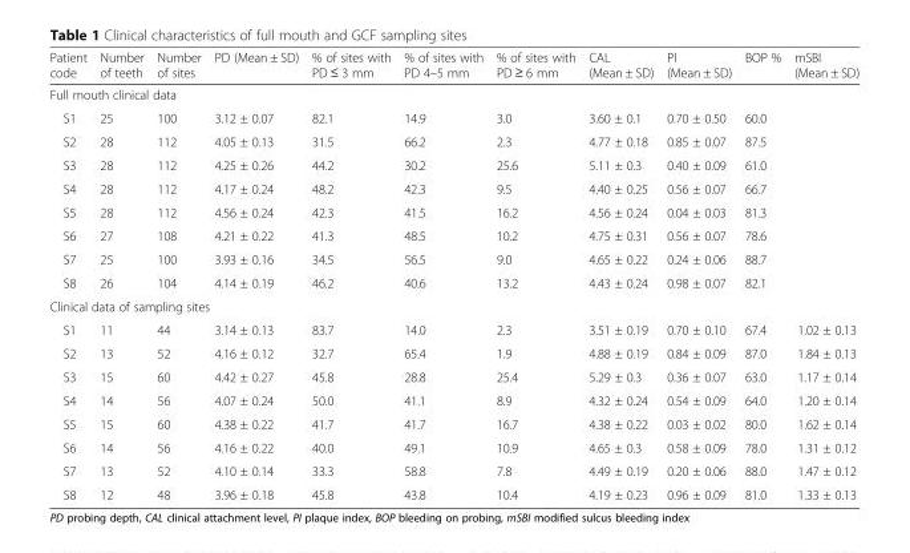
<table><thead><tr><td>Patient code</td><td>Number of teeth</td><td>Number of sites</td><td>PD (Mean ± SD)</td><td>% of sites with PD ≤ 3 mm</td><td>% of sites with PD 4–5 mm</td><td>% of sites with PD ≥ 6 mm</td><td>CAL (Mean ± SD)</td><td>PI (Mean ± SD)</td><td>BOP %</td><td>mSBI (Mean ± SD)</td></tr></thead><tbody><tr><td colspan="11">Full mouth clinical data</td></tr><tr><td>S1</td><td>25</td><td>100</td><td>3.12 ± 0.07</td><td>82.1</td><td>14.9</td><td>3.0</td><td>3.60 ± 0.1</td><td>0.70 ± 0.50</td><td>60.0</td><td></td></tr><tr><td>S2</td><td>28</td><td>112</td><td>4.05 ± 0.13</td><td>31.5</td><td>66.2</td><td>2.3</td><td>4.77 ± 0.18</td><td>0.85 ± 0.07</td><td>87.5</td><td></td></tr><tr><td>S3</td><td>28</td><td>112</td><td>4.25 ± 0.26</td><td>44.2</td><td>30.2</td><td>25.6</td><td>5.11 ± 0.3</td><td>0.40 ± 0.09</td><td>61.0</td><td></td></tr><tr><td>S4</td><td>28</td><td>112</td><td>4.17 ± 0.24</td><td>48.2</td><td>42.3</td><td>9.5</td><td>4.40 ± 0.25</td><td>0.56 ± 0.07</td><td>66.7</td><td></td></tr><tr><td>S5</td><td>28</td><td>112</td><td>4.56 ± 0.24</td><td>42.3</td><td>41.5</td><td>16.2</td><td>4.56 ± 0.24</td><td>0.04 ± 0.03</td><td>81.3</td><td></td></tr><tr><td>S6</td><td>27</td><td>108</td><td>4.21 ± 0.22</td><td>41.3</td><td>48.5</td><td>10.2</td><td>4.75 ± 0.31</td><td>0.56 ± 0.07</td><td>78.6</td><td></td></tr><tr><td>S7</td><td>25</td><td>100</td><td>3.93 ± 0.16</td><td>34.5</td><td>56.5</td><td>9.0</td><td>4.65 ± 0.22</td><td>0.24 ± 0.06</td><td>88.7</td><td></td></tr><tr><td>S8</td><td>26</td><td>104</td><td>4.14 ± 0.19</td><td>46.2</td><td>40.6</td><td>13.2</td><td>4.43 ± 0.24</td><td>0.98 ± 0.07</td><td>82.1</td><td></td></tr><tr><td colspan="11">Clinical data of sampling sites</td></tr><tr><td>S1</td><td>11</td><td>44</td><td>3.14 ± 0.13</td><td>83.7</td><td>14.0</td><td>2.3</td><td>3.51 ± 0.19</td><td>0.70 ± 0.10</td><td>67.4</td><td>1.02 ± 0.13</td></tr><tr><td>S2</td><td>13</td><td>52</td><td>4.16 ± 0.12</td><td>32.7</td><td>65.4</td><td>1.9</td><td>4.88 ± 0.19</td><td>0.84 ± 0.09</td><td>87.0</td><td>1.84 ± 0.13</td></tr><tr><td>S3</td><td>15</td><td>60</td><td>4.42 ± 0.27</td><td>45.8</td><td>28.8</td><td>25.4</td><td>5.29 ± 0.3</td><td>0.36 ± 0.07</td><td>63.0</td><td>1.17 ± 0.14</td></tr><tr><td>S4</td><td>14</td><td>56</td><td>4.07 ± 0.24</td><td>50.0</td><td>41.1</td><td>8.9</td><td>4.32 ± 0.24</td><td>0.54 ± 0.09</td><td>64.0</td><td>1.20 ± 0.14</td></tr><tr><td>S5</td><td>15</td><td>60</td><td>4.38 ± 0.22</td><td>41.7</td><td>41.7</td><td>16.7</td><td>4.38 ± 0.22</td><td>0.03 ± 0.02</td><td>80.0</td><td>1.62 ± 0.14</td></tr><tr><td>S6</td><td>14</td><td>56</td><td>4.16 ± 0.22</td><td>40.0</td><td>49.1</td><td>10.9</td><td>4.65 ± 0.3</td><td>0.58 ± 0.09</td><td>78.0</td><td>1.31 ± 0.12</td></tr><tr><td>S7</td><td>13</td><td>52</td><td>4.10 ± 0.14</td><td>33.3</td><td>58.8</td><td>7.8</td><td>4.49 ± 0.19</td><td>0.20 ± 0.06</td><td>88.0</td><td>1.47 ± 0.12</td></tr><tr><td>S8</td><td>12</td><td>48</td><td>3.96 ± 0.18</td><td>45.8</td><td>43.8</td><td>10.4</td><td>4.19 ± 0.23</td><td>0.96 ± 0.09</td><td>81.0</td><td>1.33 ± 0.13</td></tr></tbody></table>